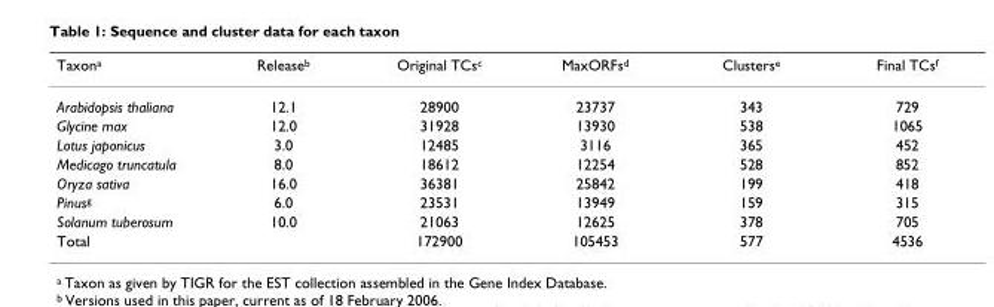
<table><thead><tr><td>Taxona</td><td>Releaseb</td><td>Original TCsc</td><td>MaxORFsd</td><td>Clusterse</td><td>Final TCsf</td></tr></thead><tbody><tr><td>Arabidopsis thaliana</td><td>12.1</td><td>28900</td><td>23737</td><td>343</td><td>729</td></tr><tr><td>Glycine max</td><td>12.0</td><td>31928</td><td>13930</td><td>538</td><td>1065</td></tr><tr><td>Lotus japonicus</td><td>3.0</td><td>12485</td><td>3116</td><td>365</td><td>452</td></tr><tr><td>Medicago truncatula</td><td>8.0</td><td>18612</td><td>12254</td><td>528</td><td>852</td></tr><tr><td>Oryza sativa</td><td>16.0</td><td>36381</td><td>25842</td><td>199</td><td>418</td></tr><tr><td>Pinusg</td><td>6.0</td><td>23531</td><td>13949</td><td>159</td><td>315</td></tr><tr><td>Solanum tuberosum</td><td>10.0</td><td>21063</td><td>12625</td><td>378</td><td>705</td></tr><tr><td>Total</td><td></td><td>172900</td><td>105453</td><td>577</td><td>4536</td></tr></tbody></table>